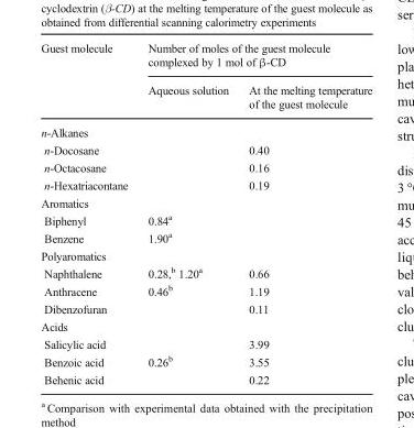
<table><thead><tr><td rowspan="2">Guest molecule</td><td colspan="2">Number of moles of the guest molecule complexed by 1 mol of β-CD</td></tr><tr><td>Aqueous solution</td><td>At the melting temperature of the guest molecule</td></tr></thead><tbody><tr><td colspan="3">n-Alkanes</td></tr><tr><td>n-Docosane</td><td></td><td>0.40</td></tr><tr><td>n-Octacosane</td><td></td><td>0.16</td></tr><tr><td>n-Hexatriacontane</td><td></td><td>0.19</td></tr><tr><td colspan="3">Aromatics</td></tr><tr><td>Biphenyl</td><td>0.84<sup>a</sup></td><td></td></tr><tr><td>Benzene</td><td>1.90<sup>a</sup></td><td></td></tr><tr><td colspan="3">Polyaromatics</td></tr><tr><td>Naphthalene</td><td>0.28,<sup>b</sup> 1.20<sup>a</sup></td><td>0.66</td></tr><tr><td>Anthracene</td><td>0.46<sup>b</sup></td><td>1.19</td></tr><tr><td>Dibenzofuran</td><td></td><td>0.11</td></tr><tr><td colspan="3">Acids</td></tr><tr><td>Salicylic acid</td><td></td><td>3.99</td></tr><tr><td>Benzoic acid</td><td>0.26<sup>b</sup></td><td>3.55</td></tr><tr><td>Behenic acid</td><td></td><td>0.22</td></tr></tbody></table>